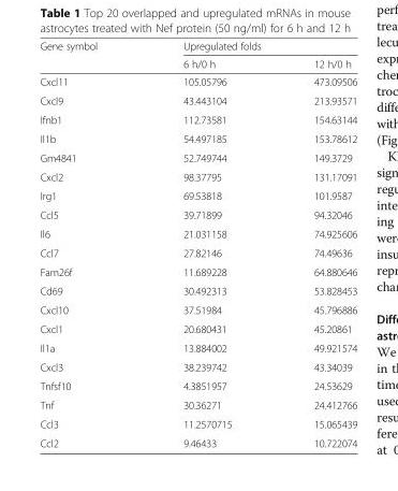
<table><thead><tr><td rowspan="2">Gene symbol</td><td colspan="2">Upregulated folds</td></tr><tr><td>6 h/0 h</td><td>12 h/0 h</td></tr></thead><tbody><tr><td>Cxcl11</td><td>105.05796</td><td>473.09506</td></tr><tr><td>Cxcl9</td><td>43.443104</td><td>213.93571</td></tr><tr><td>Ifnb1</td><td>112.73581</td><td>154.63144</td></tr><tr><td>Il1b</td><td>54.497185</td><td>153.78612</td></tr><tr><td>Gm4841</td><td>52.749744</td><td>149.3729</td></tr><tr><td>Cxcl2</td><td>98.37795</td><td>131.17091</td></tr><tr><td>Irg1</td><td>69.53818</td><td>101.9587</td></tr><tr><td>Ccl5</td><td>39.71899</td><td>94.32046</td></tr><tr><td>Il6</td><td>21.031158</td><td>74.925606</td></tr><tr><td>Ccl7</td><td>27.82146</td><td>74.49636</td></tr><tr><td>Fam26f</td><td>11.689228</td><td>64.880646</td></tr><tr><td>Cd69</td><td>30.492313</td><td>53.828453</td></tr><tr><td>Cxcl10</td><td>37.51984</td><td>45.796886</td></tr><tr><td>Cxcl1</td><td>20.680431</td><td>45.20861</td></tr><tr><td>Il1a</td><td>13.884002</td><td>49.921574</td></tr><tr><td>Cxcl3</td><td>38.239742</td><td>43.34039</td></tr><tr><td>Tnfsf10</td><td>4.3851957</td><td>24.53629</td></tr><tr><td>Tnf</td><td>30.36271</td><td>24.412766</td></tr><tr><td>Ccl3</td><td>11.2570715</td><td>15.065439</td></tr><tr><td>Ccl2</td><td>9.46433</td><td>10.722074</td></tr></tbody></table>